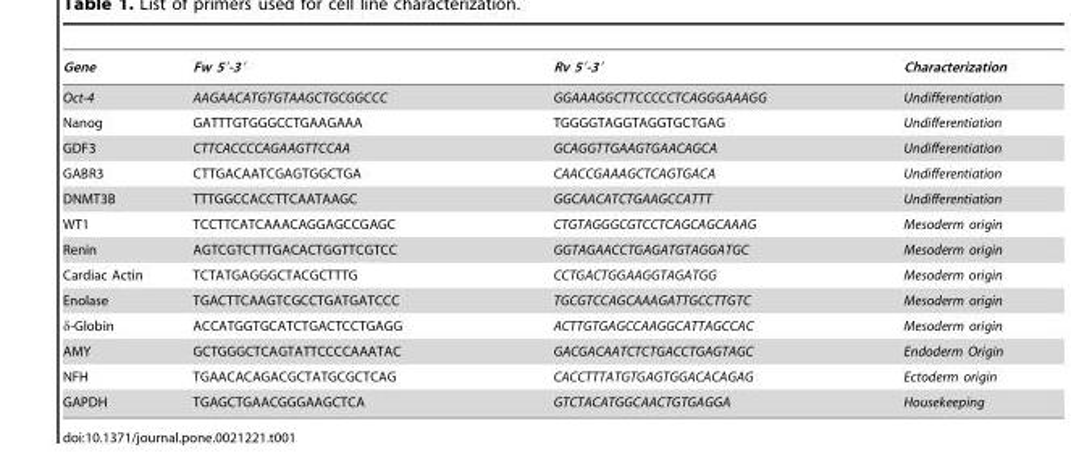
<table><thead><tr><td>Gene</td><td>Fw 5′-3′</td><td>Rv 5′-3′</td><td>Characterization</td></tr></thead><tbody><tr><td>Oct-4</td><td>AAGAACATGTGTAAGCTGCGGCCC</td><td>GGAAAGGCTTCCCCCTCAGGGAAAGG</td><td>Undifferentiation</td></tr><tr><td>Nanog</td><td>GATTTGTGGGCCTGAAGAAA</td><td>TGGGGTAGGTAGGTGCTGAG</td><td>Undifferentiation</td></tr><tr><td>GDF3</td><td>CTTCACCCCAGAAGTTCCAA</td><td>GCAGGTTGAAGTGAACAGCA</td><td>Undifferentiation</td></tr><tr><td>GABR3</td><td>CTTGACAATCGAGTGGCTGA</td><td>CAACCGAAAGCTCAGTGACA</td><td>Undifferentiation</td></tr><tr><td>DNMT3B</td><td>TTTGGCCACCTTCAATAAGC</td><td>GGCAACATCTGAAGCCATTT</td><td>Undifferentiation</td></tr><tr><td>WT1</td><td>TCCTTCATCAAACAGGAGCCGAGC</td><td>CTGTAGGGCGTCCTCAGCAGCAAAG</td><td>Mesoderm origin</td></tr><tr><td>Renin</td><td>AGTCGTCTTTGACACTGGTTCGTCC</td><td>GGTAGAACCTGAGATGTAGGATGC</td><td>Mesoderm origin</td></tr><tr><td>Cardiac Actin</td><td>TCTATGAGGGCTACGCTTTG</td><td>CCTGACTGGAAGGTAGATGG</td><td>Mesoderm origin</td></tr><tr><td>Enolase</td><td>TGACTTCAAGTCGCCTGATGATCCC</td><td>TGCGTCCAGCAAAGATTGCCTTGTC</td><td>Mesoderm origin</td></tr><tr><td>δ-Globin</td><td>ACCATGGTGCATCTGACTCCTGAGG</td><td>ACTTGTGAGCCAAGGCATTAGCCAC</td><td>Mesoderm origin</td></tr><tr><td>AMY</td><td>GCTGGGCTCAGTATTCCCCAAATAC</td><td>GACGACAATCTCTGACCTGAGTAGC</td><td>Endoderm Origin</td></tr><tr><td>NFH</td><td>TGAACACAGACGCTATGCGCTCAG</td><td>CACCTTTATGTGAGTGGACACAGAG</td><td>Ectoderm origin</td></tr><tr><td>GAPDH</td><td>TGAGCTGAACGGGAAGCTCA</td><td>GTCTACATGGCAACTGTGAGGA</td><td>Housekeeping</td></tr></tbody></table>